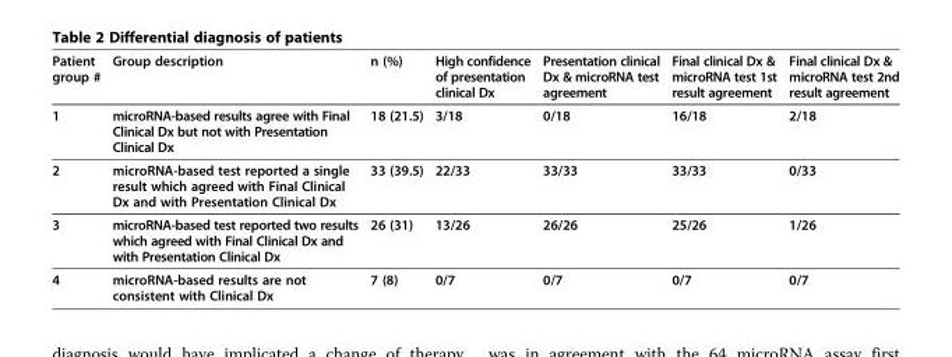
<table><thead><tr><td>Patient group #</td><td>Group description</td><td>n (%)</td><td>High confidence of presentation clinical Dx</td><td>Presentation clinical Dx &amp; microRNA test agreement</td><td>Final clinical Dx &amp; microRNA test 1st result agreement</td><td>Final clinical Dx &amp; microRNA test 2nd result agreement</td></tr></thead><tbody><tr><td>1</td><td>microRNA-based results agree with Final Clinical Dx but not with Presentation Clinical Dx</td><td>18 (21.5)</td><td>3/18</td><td>0/18</td><td>16/18</td><td>2/18</td></tr><tr><td>2</td><td>microRNA-based test reported a single result which agreed with Final Clinical Dx and with Presentation Clinical Dx</td><td>33 (39.5)</td><td>22/33</td><td>33/33</td><td>33/33</td><td>0/33</td></tr><tr><td>3</td><td>microRNA-based test reported two results which agreed with Final Clinical Dx and with Presentation Clinical Dx</td><td>26 (31)</td><td>13/26</td><td>26/26</td><td>25/26</td><td>1/26</td></tr><tr><td>4</td><td>microRNA-based results are not consistent with Clinical Dx</td><td>7 (8)</td><td>0/7</td><td>0/7</td><td>0/7</td><td>0/7</td></tr></tbody></table>